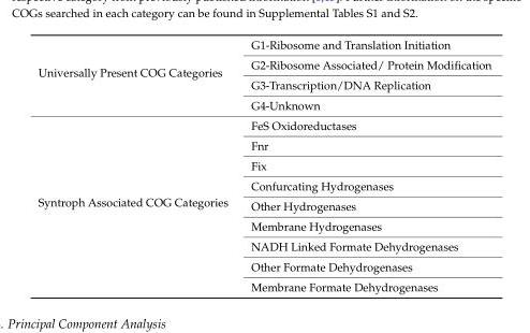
<table><tbody><tr><td rowspan="4">Universally Present COG Categories</td><td>G1-Ribosome and Translation Initiation</td></tr><tr><td>G2-Ribosome Associated/ Protein Modification</td></tr><tr><td>G3-Transcription/DNA Replication</td></tr><tr><td>G4-Unknown</td></tr><tr><td rowspan="9">Syntroph Associated COG Categories</td><td>FeS Oxidoreductases</td></tr><tr><td>Fnr</td></tr><tr><td>Fix</td></tr><tr><td>Confurcating Hydrogenases</td></tr><tr><td>Other Hydrogenases</td></tr><tr><td>Membrane Hydrogenases</td></tr><tr><td>NADH Linked Formate Dehydrogenases</td></tr><tr><td>Other Formate Dehydrogenases</td></tr><tr><td>Membrane Formate Dehydrogenases</td></tr></tbody></table>